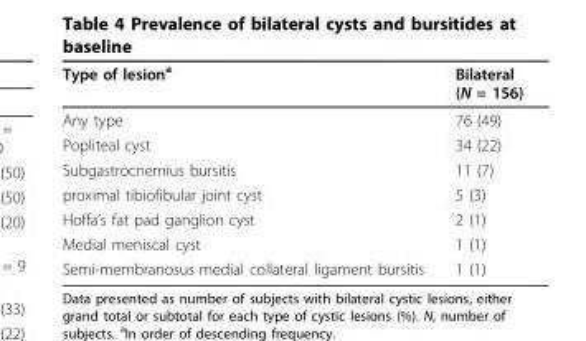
<table><thead><tr><td>Type of lesion<sup>a</sup></td><td>Bilateral (N = 156)</td></tr></thead><tbody><tr><td>Any type</td><td>76 (49)</td></tr><tr><td>Popliteal cyst</td><td>34 (22)</td></tr><tr><td>Subgastrocnemius bursitis</td><td>11 (7)</td></tr><tr><td>proximal tibiofibular joint cyst</td><td>5 (3)</td></tr><tr><td>Hoffa’s fat pad ganglion cyst</td><td>2 (1)</td></tr><tr><td>Medial meniscal cyst</td><td>1 (1)</td></tr><tr><td>Semi-membranosus medial collateral ligament bursitis</td><td>1 (1)</td></tr></tbody></table>